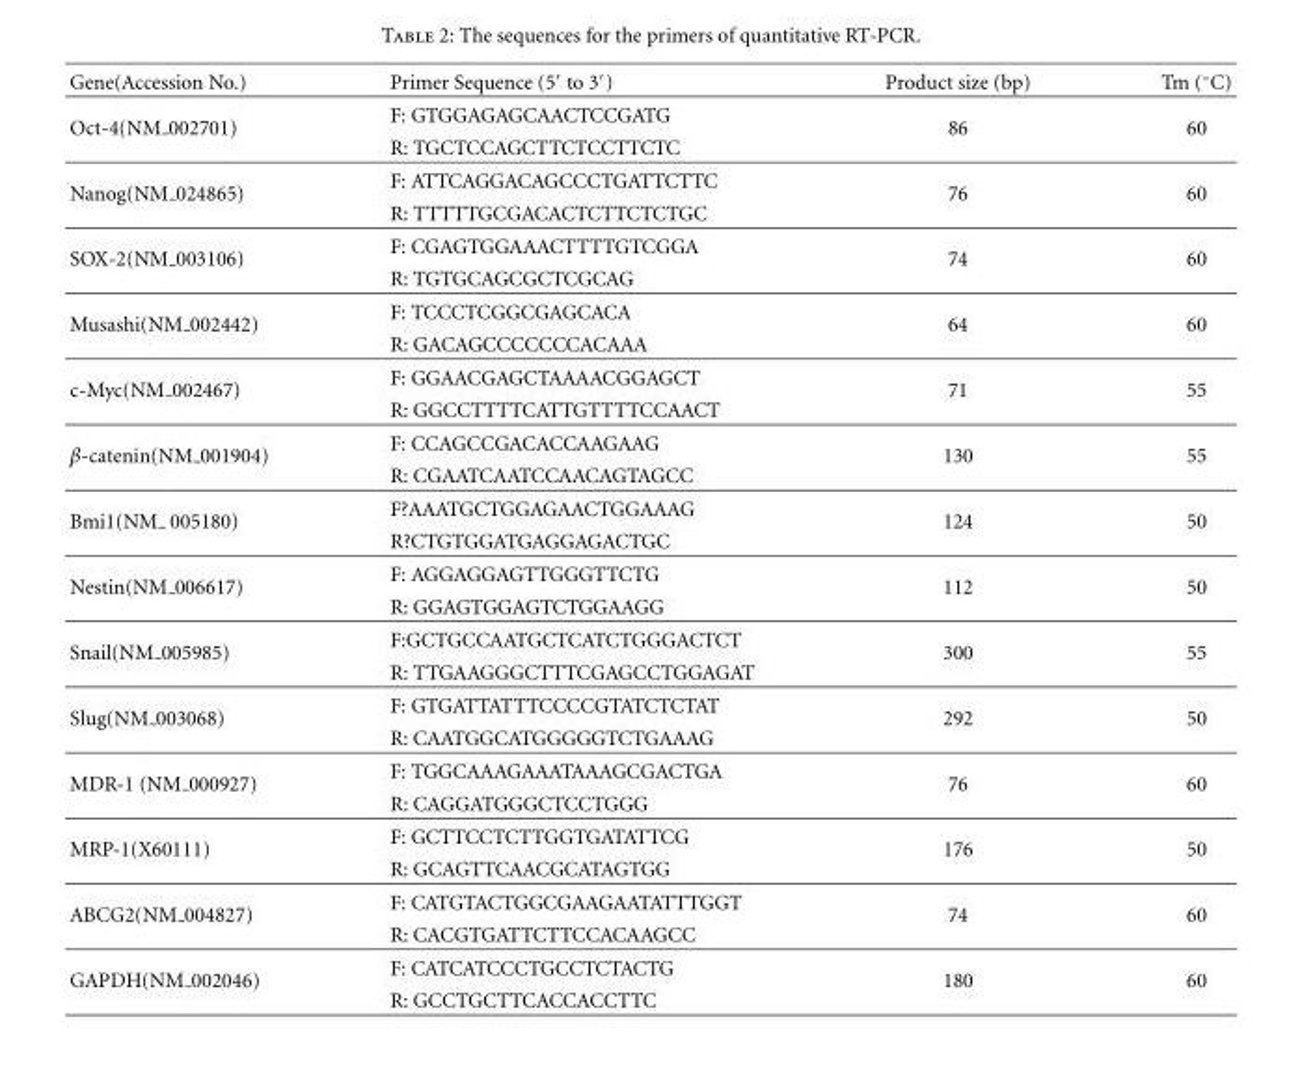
<table><thead><tr><td>Gene(Accession No.)</td><td>Primer Sequence (5′ to 3′)</td><td>Product size (bp)</td><td>Tm (◦C)</td></tr></thead><tbody><tr><td rowspan="2">Oct-4(NM 002701)</td><td>F: GTGGAGAGCAACTCCGATG</td><td rowspan="2">86</td><td rowspan="2">60</td></tr><tr><td>R: TGCTCCAGCTTCTCCTTCTC</td></tr><tr><td rowspan="2">Nanog(NM 024865)</td><td>F: ATTCAGGACAGCCCTGATTCTTC</td><td rowspan="2">76</td><td rowspan="2">60</td></tr><tr><td>R: TTTTTGCGACACTCTTCTCTGC</td></tr><tr><td rowspan="2">SOX-2(NM 003106)</td><td>F: CGAGTGGAAACTTTTGTCGGA</td><td rowspan="2">74</td><td rowspan="2">60</td></tr><tr><td>R: TGTGCAGCGCTCGCAG</td></tr><tr><td rowspan="2">Musashi(NM 002442)</td><td>F: TCCCTCGGCGAGCACA</td><td rowspan="2">64</td><td rowspan="2">60</td></tr><tr><td>R: GACAGCCCCCCCACAAA</td></tr><tr><td rowspan="2">c-Myc(NM 002467)</td><td>F: GGAACGAGCTAAAACGGAGCT</td><td rowspan="2">71</td><td rowspan="2">55</td></tr><tr><td>R: GGCCTTTTCATTGTTTTCCAACT</td></tr><tr><td rowspan="2">β-catenin(NM 001904)</td><td>F: CCAGCCGACACCAAGAAG</td><td rowspan="2">130</td><td rowspan="2">55</td></tr><tr><td>R: CGAATCAATCCAACAGTAGCC</td></tr><tr><td rowspan="2">Bmi1(NM 005180)</td><td>F：AAATGCTGGAGAACTGGAAAG</td><td rowspan="2">124</td><td rowspan="2">50</td></tr><tr><td>R：CTGTGGATGAGGAGACTGC</td></tr><tr><td rowspan="2">Nestin(NM 006617)</td><td>F: AGGAGGAGTTGGGTTCTG</td><td rowspan="2">112</td><td rowspan="2">50</td></tr><tr><td>R: GGAGTGGAGTCTGGAAGG</td></tr><tr><td rowspan="2">Snail(NM 005985)</td><td>F:GCTGCCAATGCTCATCTGGGACTCT</td><td rowspan="2">300</td><td rowspan="2">55</td></tr><tr><td>R: TTGAAGGGCTTTCGAGCCTGGAGAT</td></tr><tr><td rowspan="2">Slug(NM 003068)</td><td>F: GTGATTATTTCCCCGTATCTCTAT</td><td rowspan="2">292</td><td rowspan="2">50</td></tr><tr><td>R: CAATGGCATGGGGGTCTGAAAG</td></tr><tr><td rowspan="2">MDR-1 (NM 000927)</td><td>F: TGGCAAAGAAATAAAGCGACTGA</td><td rowspan="2">76</td><td rowspan="2">60</td></tr><tr><td>R: CAGGATGGGCTCCTGGG</td></tr><tr><td rowspan="2">MRP-1(X60111)</td><td>F: GCTTCCTCTTGGTGATATTCG</td><td rowspan="2">176</td><td rowspan="2">50</td></tr><tr><td>R: GCAGTTCAACGCATAGTGG</td></tr><tr><td rowspan="2">ABCG2(NM 004827)</td><td>F: CATGTACTGGCGAAGAATATTTGGT</td><td rowspan="2">74</td><td rowspan="2">60</td></tr><tr><td>R: CACGTGATTCTTCCACAAGCC</td></tr><tr><td rowspan="2">GAPDH(NM 002046)</td><td>F: CATCATCCCTGCCTCTACTG</td><td rowspan="2">180</td><td rowspan="2">60</td></tr><tr><td>R: GCCTGCTTCACCACCTTC</td></tr></tbody></table>